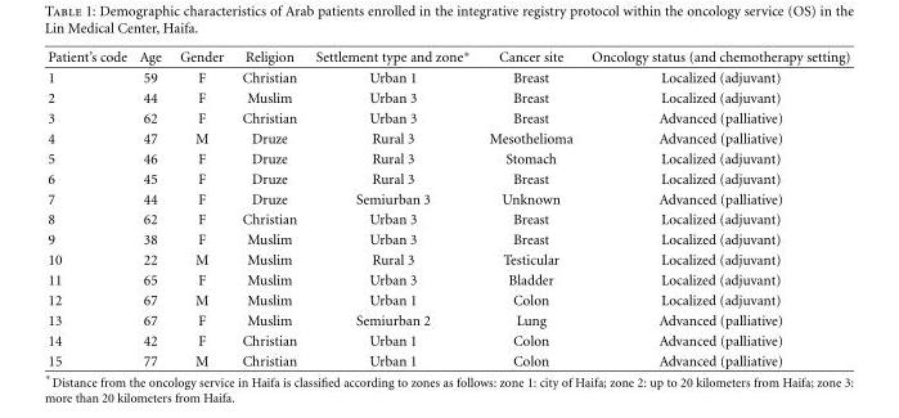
<table><thead><tr><td>Patient’s code</td><td>Age</td><td>Gender</td><td>Religion</td><td>Settlement type and zone∗</td><td>Cancer site</td><td>Oncology status (and chemotherapy setting)</td></tr></thead><tbody><tr><td>1</td><td>59</td><td>F</td><td>Christian</td><td>Urban 1</td><td>Breast</td><td>Localized (adjuvant)</td></tr><tr><td>2</td><td>44</td><td>F</td><td>Muslim</td><td>Urban 3</td><td>Breast</td><td>Localized (adjuvant)</td></tr><tr><td>3</td><td>62</td><td>F</td><td>Christian</td><td>Urban 3</td><td>Breast</td><td>Advanced (palliative)</td></tr><tr><td>4</td><td>47</td><td>M</td><td>Druze</td><td>Rural 3</td><td>Mesothelioma</td><td>Advanced (palliative)</td></tr><tr><td>5</td><td>46</td><td>F</td><td>Druze</td><td>Rural 3</td><td>Stomach</td><td>Localized (adjuvant)</td></tr><tr><td>6</td><td>45</td><td>F</td><td>Druze</td><td>Rural 3</td><td>Breast</td><td>Localized (adjuvant)</td></tr><tr><td>7</td><td>44</td><td>F</td><td>Druze</td><td>Semiurban 3</td><td>Unknown</td><td>Advanced (palliative)</td></tr><tr><td>8</td><td>62</td><td>F</td><td>Christian</td><td>Urban 3</td><td>Breast</td><td>Localized (adjuvant)</td></tr><tr><td>9</td><td>38</td><td>F</td><td>Muslim</td><td>Urban 3</td><td>Breast</td><td>Localized (adjuvant)</td></tr><tr><td>10</td><td>22</td><td>M</td><td>Muslim</td><td>Rural 3</td><td>Testicular</td><td>Localized (adjuvant)</td></tr><tr><td>11</td><td>65</td><td>F</td><td>Muslim</td><td>Urban 3</td><td>Bladder</td><td>Localized (adjuvant)</td></tr><tr><td>12</td><td>67</td><td>M</td><td>Muslim</td><td>Urban 1</td><td>Colon</td><td>Localized (adjuvant)</td></tr><tr><td>13</td><td>67</td><td>F</td><td>Muslim</td><td>Semiurban 2</td><td>Lung</td><td>Advanced (palliative)</td></tr><tr><td>14</td><td>42</td><td>F</td><td>Christian</td><td>Urban 1</td><td>Colon</td><td>Advanced (palliative)</td></tr><tr><td>15</td><td>77</td><td>M</td><td>Christian</td><td>Urban 1</td><td>Colon</td><td>Advanced (palliative)</td></tr></tbody></table>